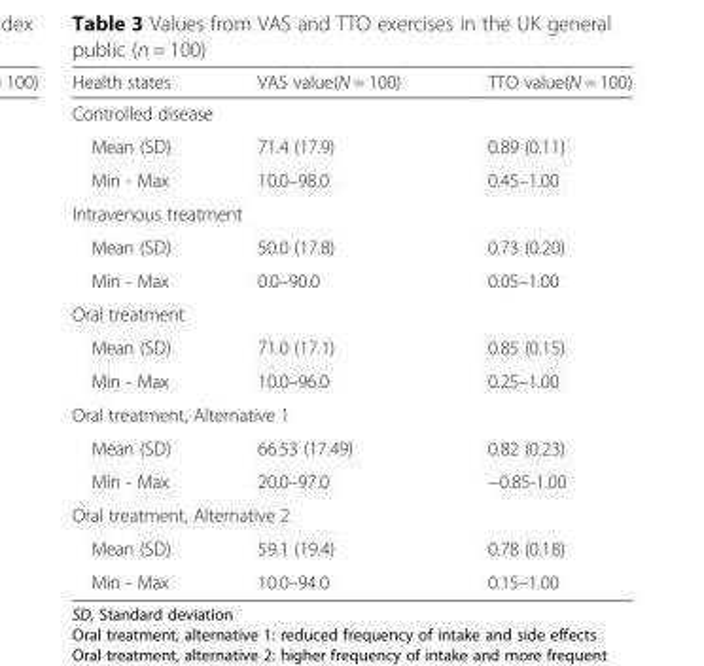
<table><thead><tr><td>Health states</td><td>VAS value(N = 100)</td><td>TTO value(N = 100)</td></tr></thead><tbody><tr><td colspan="3">Controlled disease</td></tr><tr><td>Mean (SD)</td><td>71.4 (17.9)</td><td>0.89 (0.11)</td></tr><tr><td>Min - Max</td><td>10.0–98.0</td><td>0.45–1.00</td></tr><tr><td colspan="3">Intravenous treatment</td></tr><tr><td>Mean (SD)</td><td>50.0 (17.8)</td><td>0.73 (0.20)</td></tr><tr><td>Min - Max</td><td>0.0–90.0</td><td>0.05–1.00</td></tr><tr><td colspan="3">Oral treatment</td></tr><tr><td>Mean (SD)</td><td>71.0 (17.1)</td><td>0.85 (0.15)</td></tr><tr><td>Min - Max</td><td>10.0–96.0</td><td>0.25–1.00</td></tr><tr><td colspan="3">Oral treatment, Alternative 1</td></tr><tr><td>Mean (SD)</td><td>66.53 (17.49)</td><td>0.82 (0.23)</td></tr><tr><td>Min - Max</td><td>20.0–97.0</td><td>−0.85-1.00</td></tr><tr><td colspan="3">Oral treatment, Alternative 2</td></tr><tr><td>Mean (SD)</td><td>59.1 (19.4)</td><td>0.78 (0.18)</td></tr><tr><td>Min - Max</td><td>10.0–94.0</td><td>0.15–1.00</td></tr></tbody></table>